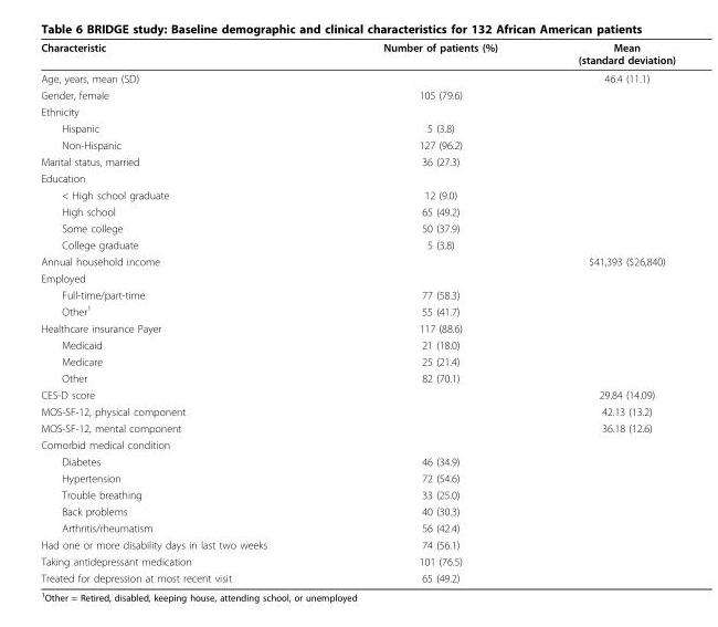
<table><thead><tr><td>Characteristic</td><td>Number of patients (%)</td><td>Mean (standard deviation)</td></tr></thead><tbody><tr><td>Age, years, mean (SD)</td><td></td><td>46.4 (11.1)</td></tr><tr><td>Gender, female</td><td>105 (79.6)</td><td></td></tr><tr><td colspan="3">Ethnicity</td></tr><tr><td>Hispanic</td><td>5 (3.8)</td><td></td></tr><tr><td>Non-Hispanic</td><td>127 (96.2)</td><td></td></tr><tr><td>Marital status, married</td><td>36 (27.3)</td><td></td></tr><tr><td colspan="3">Education</td></tr><tr><td>&lt; High school graduate</td><td>12 (9.0)</td><td></td></tr><tr><td>High school</td><td>65 (49.2)</td><td></td></tr><tr><td>Some college</td><td>50 (37.9)</td><td></td></tr><tr><td>College graduate</td><td>5 (3.8)</td><td></td></tr><tr><td>Annual household income</td><td></td><td>$41,393 ($26,840)</td></tr><tr><td colspan="3">Employed</td></tr><tr><td>Full-time/part-time</td><td>77 (58.3)</td><td></td></tr><tr><td>Other<sup>1</sup></td><td>55 (41.7)</td><td></td></tr><tr><td>Healthcare insurance Payer</td><td>117 (88.6)</td><td></td></tr><tr><td>Medicaid</td><td>21 (18.0)</td><td></td></tr><tr><td>Medicare</td><td>25 (21.4)</td><td></td></tr><tr><td>Other</td><td>82 (70.1)</td><td></td></tr><tr><td>CES-D score</td><td></td><td>29.84 (14.09)</td></tr><tr><td>MOS-SF-12, physical component</td><td></td><td>42.13 (13.2)</td></tr><tr><td>MOS-SF-12, mental component</td><td></td><td>36.18 (12.6)</td></tr><tr><td colspan="3">Comorbid medical condition</td></tr><tr><td>Diabetes</td><td>46 (34.9)</td><td></td></tr><tr><td>Hypertension</td><td>72 (54.6)</td><td></td></tr><tr><td>Trouble breathing</td><td>33 (25.0)</td><td></td></tr><tr><td>Back problems</td><td>40 (30.3)</td><td></td></tr><tr><td>Arthritis/rheumatism</td><td>56 (42.4)</td><td></td></tr><tr><td>Had one or more disability days in last two weeks</td><td>74 (56.1)</td><td></td></tr><tr><td>Taking antidepressant medication</td><td>101 (76.5)</td><td></td></tr><tr><td>Treated for depression at most recent visit</td><td>65 (49.2)</td><td></td></tr></tbody></table>